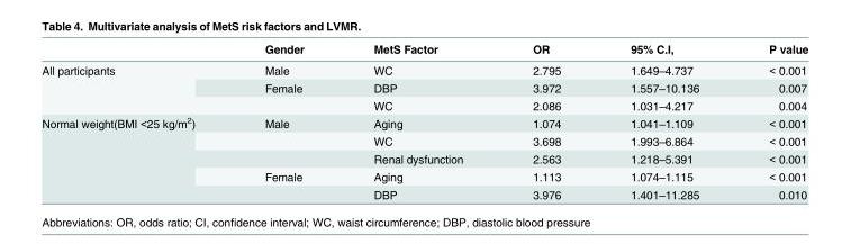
<table><thead><tr><td></td><td>Gender</td><td>MetS Factor</td><td>OR</td><td>95% C.I,</td><td>P value</td></tr></thead><tbody><tr><td rowspan="3">All participants</td><td>Male</td><td>WC</td><td>2.795</td><td>1.649–4.737</td><td>&lt; 0.001</td></tr><tr><td>Female</td><td>DBP</td><td>3.972</td><td>1.557–10.136</td><td>0.007</td></tr><tr><td></td><td>WC</td><td>2.086</td><td>1.031–4.217</td><td>0.004</td></tr><tr><td rowspan="5">Normal weight(BMI &lt;25 kg/m<sup>2</sup>)</td><td>Male</td><td>Aging</td><td>1.074</td><td>1.041–1.109</td><td>&lt; 0.001</td></tr><tr><td></td><td>WC</td><td>3.698</td><td>1.993–6.864</td><td>&lt; 0.001</td></tr><tr><td></td><td>Renal dysfunction</td><td>2.563</td><td>1.218–5.391</td><td>&lt; 0.001</td></tr><tr><td>Female</td><td>Aging</td><td>1.113</td><td>1.074–1.115</td><td>&lt; 0.001</td></tr><tr><td></td><td>DBP</td><td>3.976</td><td>1.401–11.285</td><td>0.010</td></tr></tbody></table>